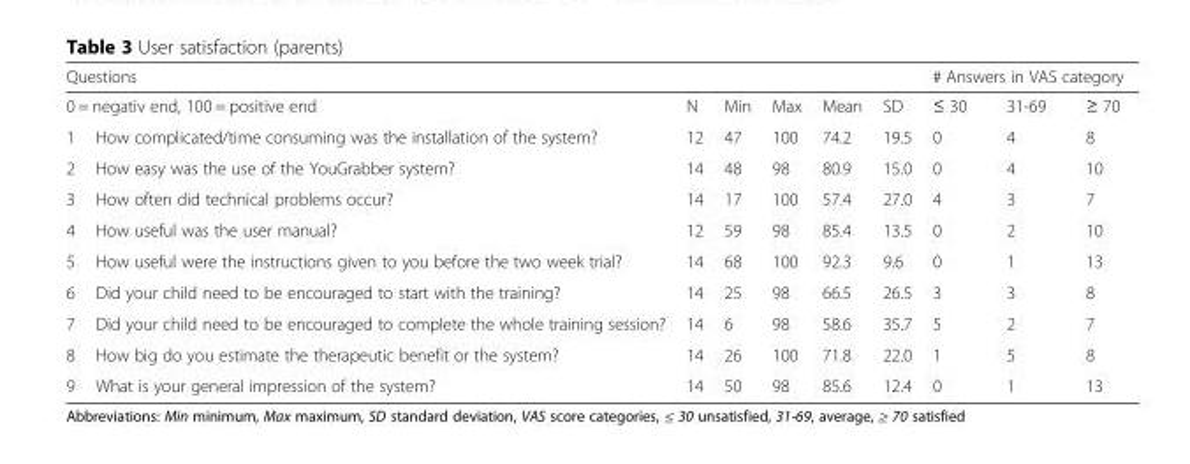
<table><thead><tr><td rowspan="2" colspan="2">Questions 0 = negativ end, 100 = positive end</td><td rowspan="3">N 12</td><td rowspan="3">Min 47</td><td rowspan="3">Max 100</td><td rowspan="3">Mean 74.2</td><td rowspan="3">SD 19.5</td><td colspan="3"># Answers in VAS category</td></tr><tr><td rowspan="2">≤ 30 0</td><td rowspan="2">31-69 4</td><td rowspan="2">≥ 70 8</td></tr><tr><td>1</td><td>How complicated/time consuming was the installation of the system?</td></tr></thead><tbody><tr><td>2</td><td>How easy was the use of the YouGrabber system?</td><td>14</td><td>48</td><td>98</td><td>80.9</td><td>15.0</td><td>0</td><td>4</td><td>10</td></tr><tr><td>3</td><td>How often did technical problems occur?</td><td>14</td><td>17</td><td>100</td><td>57.4</td><td>27.0</td><td>4</td><td>3</td><td>7</td></tr><tr><td>4</td><td>How useful was the user manual?</td><td>12</td><td>59</td><td>98</td><td>85.4</td><td>13.5</td><td>0</td><td>2</td><td>10</td></tr><tr><td>5</td><td>How useful were the instructions given to you before the two week trial?</td><td>14</td><td>68</td><td>100</td><td>92.3</td><td>9.6</td><td>0</td><td>1</td><td>13</td></tr><tr><td>6</td><td>Did your child need to be encouraged to start with the training?</td><td>14</td><td>25</td><td>98</td><td>66.5</td><td>26.5</td><td>3</td><td>3</td><td>8</td></tr><tr><td>7</td><td>Did your child need to be encouraged to complete the whole training session?</td><td>14</td><td>6</td><td>98</td><td>58.6</td><td>35.7</td><td>5</td><td>2</td><td>7</td></tr><tr><td>8</td><td>How big do you estimate the therapeutic benefit or the system?</td><td>14</td><td>26</td><td>100</td><td>71.8</td><td>22.0</td><td>1</td><td>5</td><td>8</td></tr><tr><td>9</td><td>What is your general impression of the system?</td><td>14</td><td>50</td><td>98</td><td>85.6</td><td>12.4</td><td>0</td><td>1</td><td>13</td></tr></tbody></table>